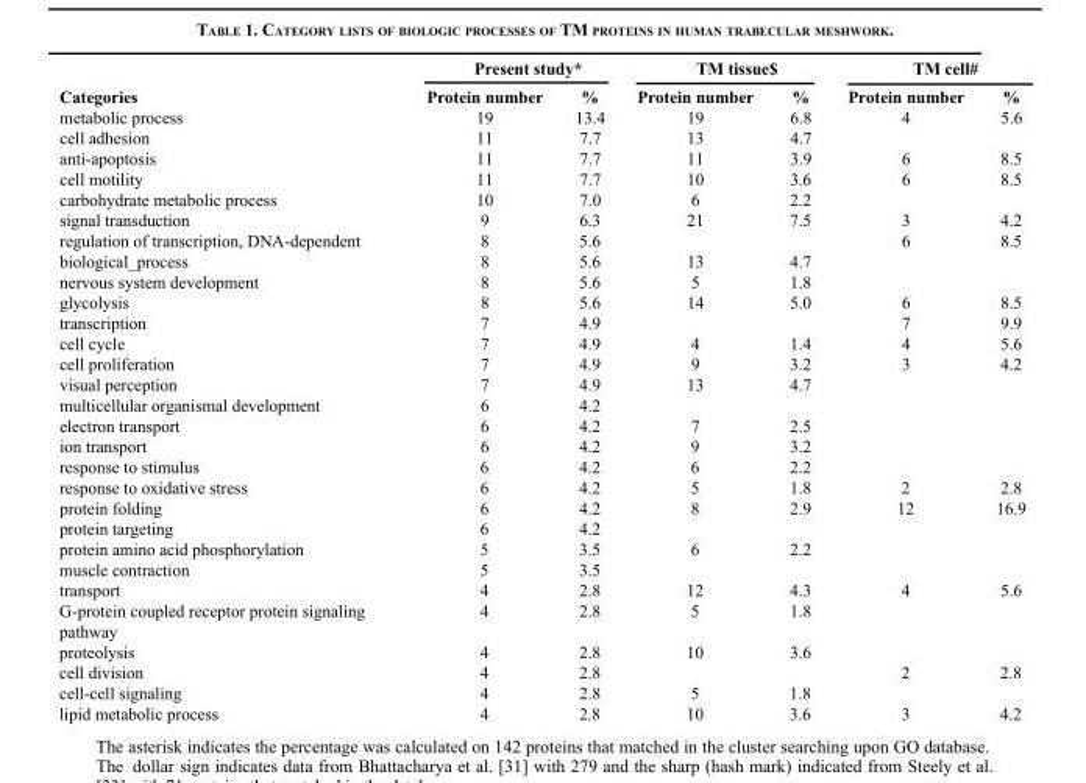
<table><thead><tr><td rowspan="2">Categories</td><td colspan="2">Present study*</td><td colspan="2">TM tissue$</td><td colspan="2">TM cell#</td></tr><tr><td>Protein number</td><td>%</td><td>Protein number</td><td>%</td><td>Protein number</td><td>%</td></tr></thead><tbody><tr><td>metabolic process</td><td>19</td><td>13.4</td><td>19</td><td>6.8</td><td>4</td><td>5.6</td></tr><tr><td>cell adhesion</td><td>11</td><td>7.7</td><td>13</td><td>4.7</td><td></td><td></td></tr><tr><td>anti-apoptosis</td><td>11</td><td>7.7</td><td>11</td><td>3.9</td><td>6</td><td>8.5</td></tr><tr><td>cell motility</td><td>11</td><td>7.7</td><td>10</td><td>3.6</td><td>6</td><td>8.5</td></tr><tr><td>carbohydrate metabolic process</td><td>10</td><td>7.0</td><td>6</td><td>2.2</td><td></td><td></td></tr><tr><td>signal transduction</td><td>9</td><td>6.3</td><td>21</td><td>7.5</td><td>3</td><td>4.2</td></tr><tr><td>regulation of transcription, DNA-dependent</td><td>8</td><td>5.6</td><td></td><td></td><td>6</td><td>8.5</td></tr><tr><td>biological_process</td><td>8</td><td>5.6</td><td>13</td><td>4.7</td><td></td><td></td></tr><tr><td>nervous system development</td><td>8</td><td>5.6</td><td>5</td><td>1.8</td><td></td><td></td></tr><tr><td>glycolysis</td><td>8</td><td>5.6</td><td>14</td><td>5.0</td><td>6</td><td>8.5</td></tr><tr><td>transcription</td><td>7</td><td>4.9</td><td></td><td></td><td>7</td><td>9.9</td></tr><tr><td>cell cycle</td><td>7</td><td>4.9</td><td>4</td><td>1.4</td><td>4</td><td>5.6</td></tr><tr><td>cell proliferation</td><td>7</td><td>4.9</td><td>9</td><td>3.2</td><td>3</td><td>4.2</td></tr><tr><td>visual perception</td><td>7</td><td>4.9</td><td>13</td><td>4.7</td><td></td><td></td></tr><tr><td>multicellular organismal development</td><td>6</td><td>4.2</td><td></td><td></td><td></td><td></td></tr><tr><td>electron transport</td><td>6</td><td>4.2</td><td>7</td><td>2.5</td><td></td><td></td></tr><tr><td>ion transport</td><td>6</td><td>4.2</td><td>9</td><td>3.2</td><td></td><td></td></tr><tr><td>response to stimulus</td><td>6</td><td>4.2</td><td>6</td><td>2.2</td><td></td><td></td></tr><tr><td>response to oxidative stress</td><td>6</td><td>4.2</td><td>5</td><td>1.8</td><td>2</td><td>2.8</td></tr><tr><td>protein folding</td><td>6</td><td>4.2</td><td>8</td><td>2.9</td><td>12</td><td>16.9</td></tr><tr><td>protein targeting</td><td>6</td><td>4.2</td><td></td><td></td><td></td><td></td></tr><tr><td>protein amino acid phosphorylation</td><td>5</td><td>3.5</td><td>6</td><td>2.2</td><td></td><td></td></tr><tr><td>muscle contraction</td><td>5</td><td>3.5</td><td></td><td></td><td></td><td></td></tr><tr><td>transport</td><td>4</td><td>2.8</td><td>12</td><td>4.3</td><td>4</td><td>5.6</td></tr><tr><td>G-protein coupled receptor protein signaling pathway</td><td>4</td><td>2.8</td><td>5</td><td>1.8</td><td></td><td></td></tr><tr><td>proteolysis</td><td>4</td><td>2.8</td><td>10</td><td>3.6</td><td></td><td></td></tr><tr><td>cell division</td><td>4</td><td>2.8</td><td></td><td></td><td>2</td><td>2.8</td></tr><tr><td>cell-cell signaling</td><td>4</td><td>2.8</td><td>5</td><td>1.8</td><td></td><td></td></tr><tr><td>lipid metabolic process</td><td>4</td><td>2.8</td><td>10</td><td>3.6</td><td>3</td><td>4.2</td></tr></tbody></table>